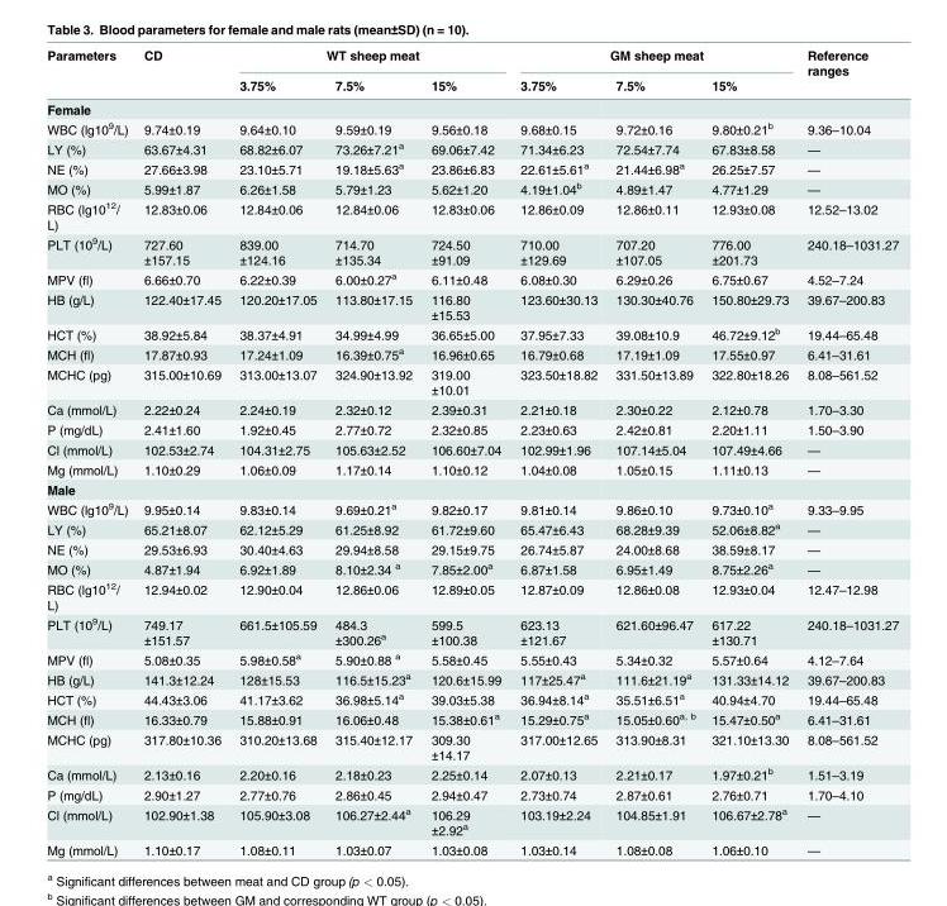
<table><thead><tr><td rowspan="2">Parameters</td><td rowspan="2">CD</td><td colspan="3">WT sheep meat</td><td colspan="3">GM sheep meat</td><td rowspan="2">Reference ranges</td></tr><tr><td>3.75%</td><td>7.5%</td><td>15%</td><td>3.75%</td><td>7.5%</td><td>15%</td></tr></thead><tbody><tr><td colspan="9">Female</td></tr><tr><td>WBC (lg10<sup>9</sup>/L)</td><td>9.74±0.19</td><td>9.64±0.10</td><td>9.59±0.19</td><td>9.56±0.18</td><td>9.68±0.15</td><td>9.72±0.16</td><td>9.80±0.21<sup>b</sup></td><td>9.36–10.04</td></tr><tr><td>LY (%)</td><td>63.67±4.31</td><td>68.82±6.07</td><td>73.26±7.21<sup>a</sup></td><td>69.06±7.42</td><td>71.34±6.23</td><td>72.54±7.74</td><td>67.83±8.58</td><td>—</td></tr><tr><td>NE (%)</td><td>27.66±3.98</td><td>23.10±5.71</td><td>19.18±5.63<sup>a</sup></td><td>23.86±6.83</td><td>22.61±5.61<sup>a</sup></td><td>21.44±6.98<sup>a</sup></td><td>26.25±7.57</td><td>—</td></tr><tr><td>MO (%)</td><td>5.99±1.87</td><td>6.26±1.58</td><td>5.79±1.23</td><td>5.62±1.20</td><td>4.19±1.04<sup>b</sup></td><td>4.89±1.47</td><td>4.77±1.29</td><td>—</td></tr><tr><td>RBC (lg10<sup>12</sup>/ L)</td><td>12.83±0.06</td><td>12.84±0.06</td><td>12.84±0.06</td><td>12.83±0.06</td><td>12.86±0.09</td><td>12.86±0.11</td><td>12.93±0.08</td><td>12.52–13.02</td></tr><tr><td>PLT (10<sup>9</sup>/L)</td><td>727.60 ±157.15</td><td>839.00 ±124.16</td><td>714.70 ±135.34</td><td>724.50 ±91.09</td><td>710.00 ±129.69</td><td>707.20 ±107.05</td><td>776.00 ±201.73</td><td>240.18–1031.27</td></tr><tr><td>MPV (fl)</td><td>6.66±0.70</td><td>6.22±0.39</td><td>6.00±0.27<sup>a</sup></td><td>6.11±0.48</td><td>6.08±0.30</td><td>6.29±0.26</td><td>6.75±0.67</td><td>4.52–7.24</td></tr><tr><td>HB (g/L)</td><td>122.40±17.45</td><td>120.20±17.05</td><td>113.80±17.15</td><td>116.80 ±15.53</td><td>123.60±30.13</td><td>130.30±40.76</td><td>150.80±29.73</td><td>39.67–200.83</td></tr><tr><td>HCT (%)</td><td>38.92±5.84</td><td>38.37±4.91</td><td>34.99±4.99</td><td>36.65±5.00</td><td>37.95±7.33</td><td>39.08±10.9</td><td>46.72±9.12<sup>b</sup></td><td>19.44–65.48</td></tr><tr><td>MCH (fl)</td><td>17.87±0.93</td><td>17.24±1.09</td><td>16.39±0.75<sup>a</sup></td><td>16.96±0.65</td><td>16.79±0.68</td><td>17.19±1.09</td><td>17.55±0.97</td><td>6.41–31.61</td></tr><tr><td>MCHC (pg)</td><td>315.00±10.69</td><td>313.00±13.07</td><td>324.90±13.92</td><td>319.00 ±10.01</td><td>323.50±18.82</td><td>331.50±13.89</td><td>322.80±18.26</td><td>8.08–561.52</td></tr><tr><td>Ca (mmol/L)</td><td>2.22±0.24</td><td>2.24±0.19</td><td>2.32±0.12</td><td>2.39±0.31</td><td>2.21±0.18</td><td>2.30±0.22</td><td>2.12±0.78</td><td>1.70–3.30</td></tr><tr><td>P (mg/dL)</td><td>2.41±1.60</td><td>1.92±0.45</td><td>2.77±0.72</td><td>2.32±0.85</td><td>2.23±0.63</td><td>2.42±0.81</td><td>2.20±1.11</td><td>1.50–3.90</td></tr><tr><td>Cl (mmol/L)</td><td>102.53±2.74</td><td>104.31±2.75</td><td>105.63±2.52</td><td>106.60±7.04</td><td>102.99±1.96</td><td>107.14±5.04</td><td>107.49±4.66</td><td>—</td></tr><tr><td>Mg (mmol/L)</td><td>1.10±0.29</td><td>1.06±0.09</td><td>1.17±0.14</td><td>1.10±0.12</td><td>1.04±0.08</td><td>1.05±0.15</td><td>1.11±0.13</td><td>—</td></tr><tr><td colspan="9">Male</td></tr><tr><td>WBC (lg10<sup>9</sup>/L)</td><td>9.95±0.14</td><td>9.83±0.14</td><td>9.69±0.21<sup>a</sup></td><td>9.82±0.17</td><td>9.81±0.14</td><td>9.86±0.10</td><td>9.73±0.10<sup>a</sup></td><td>9.33–9.95</td></tr><tr><td>LY (%)</td><td>65.21±8.07</td><td>62.12±5.29</td><td>61.25±8.92</td><td>61.72±9.60</td><td>65.47±6.43</td><td>68.28±9.39</td><td>52.06±8.82<sup>a</sup></td><td>—</td></tr><tr><td>NE (%)</td><td>29.53±6.93</td><td>30.40±4.63</td><td>29.94±8.58</td><td>29.15±9.75</td><td>26.74±5.87</td><td>24.00±8.68</td><td>38.59±8.17</td><td>—</td></tr><tr><td>MO (%)</td><td>4.87±1.94</td><td>6.92±1.89</td><td>8.10±2.34 <sup>a</sup></td><td>7.85±2.00<sup>a</sup></td><td>6.87±1.58</td><td>6.95±1.49</td><td>8.75±2.26<sup>a</sup></td><td>—</td></tr><tr><td>RBC (lg10<sup>12</sup>/ L)</td><td>12.94±0.02</td><td>12.90±0.04</td><td>12.86±0.06</td><td>12.89±0.05</td><td>12.87±0.09</td><td>12.86±0.08</td><td>12.93±0.04</td><td>12.47–12.98</td></tr><tr><td>PLT (10<sup>9</sup>/L)</td><td>749.17 ±151.57</td><td>661.5±105.59</td><td>484.3 ±300.26<sup>a</sup></td><td>599.5 ±100.38</td><td>623.13 ±121.67</td><td>621.60±96.47</td><td>617.22 ±130.71</td><td>240.18–1031.27</td></tr><tr><td>MPV (fl)</td><td>5.08±0.35</td><td>5.98±0.58<sup>a</sup></td><td>5.90±0.88 <sup>a</sup></td><td>5.58±0.45</td><td>5.55±0.43</td><td>5.34±0.32</td><td>5.57±0.64</td><td>4.12–7.64</td></tr><tr><td>HB (g/L)</td><td>141.3±12.24</td><td>128±15.53</td><td>116.5±15.23<sup>a</sup></td><td>120.6±15.99</td><td>117±25.47<sup>a</sup></td><td>111.6±21.19<sup>a</sup></td><td>131.33±14.12</td><td>39.67–200.83</td></tr><tr><td>HCT (%)</td><td>44.43±3.06</td><td>41.17±3.62</td><td>36.98±5.14<sup>a</sup></td><td>39.03±5.38</td><td>36.94±8.14<sup>a</sup></td><td>35.51±6.51<sup>a</sup></td><td>40.94±4.70</td><td>19.44–65.48</td></tr><tr><td>MCH (fl)</td><td>16.33±0.79</td><td>15.88±0.91</td><td>16.06±0.48</td><td>15.38±0.61<sup>a</sup></td><td>15.29±0.75<sup>a</sup></td><td>15.05±0.60<sup>a, b</sup></td><td>15.47±0.50<sup>a</sup></td><td>6.41–31.61</td></tr><tr><td>MCHC (pg)</td><td>317.80±10.36</td><td>310.20±13.68</td><td>315.40±12.17</td><td>309.30 ±14.17</td><td>317.00±12.65</td><td>313.90±8.31</td><td>321.10±13.30</td><td>8.08–561.52</td></tr><tr><td>Ca (mmol/L)</td><td>2.13±0.16</td><td>2.20±0.16</td><td>2.18±0.23</td><td>2.25±0.14</td><td>2.07±0.13</td><td>2.21±0.17</td><td>1.97±0.21<sup>b</sup></td><td>1.51–3.19</td></tr><tr><td>P (mg/dL)</td><td>2.90±1.27</td><td>2.77±0.76</td><td>2.86±0.45</td><td>2.94±0.47</td><td>2.73±0.74</td><td>2.87±0.61</td><td>2.76±0.71</td><td>1.70–4.10</td></tr><tr><td>Cl (mmol/L)</td><td>102.90±1.38</td><td>105.90±3.08</td><td>106.27±2.44<sup>a</sup></td><td>106.29 ±2.92<sup>a</sup></td><td>103.19±2.24</td><td>104.85±1.91</td><td>106.67±2.78<sup>a</sup></td><td>—</td></tr><tr><td>Mg (mmol/L)</td><td>1.10±0.17</td><td>1.08±0.11</td><td>1.03±0.07</td><td>1.03±0.08</td><td>1.03±0.14</td><td>1.08±0.08</td><td>1.06±0.10</td><td>—</td></tr></tbody></table>